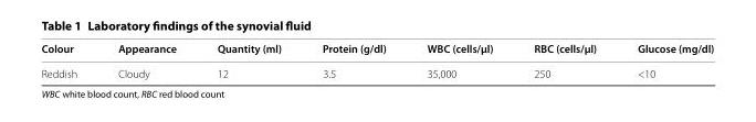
<table><thead><tr><td>Colour</td><td>Appearance</td><td>Quantity (ml)</td><td>Protein (g/dl)</td><td>WBC (cells/µl)</td><td>RBC (cells/µl)</td><td>Glucose (mg/dl)</td></tr></thead><tbody><tr><td>Reddish</td><td>Cloudy</td><td>12</td><td>3.5</td><td>35,000</td><td>250</td><td>&lt;10</td></tr></tbody></table>